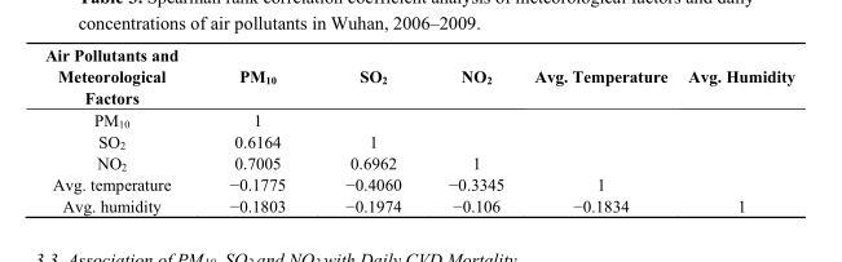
<table><thead><tr><td>Air Pollutants and Meteorological Factors</td><td>PM<sub>10</sub></td><td>SO<sub>2</sub></td><td>NO<sub>2</sub></td><td>Avg. Temperature</td><td>Avg. Humidity</td></tr></thead><tbody><tr><td>PM<sub>10</sub></td><td>1</td><td></td><td></td><td></td><td></td></tr><tr><td>SO<sub>2</sub></td><td>0.6164</td><td>1</td><td></td><td></td><td></td></tr><tr><td>NO<sub>2</sub></td><td>0.7005</td><td>0.6962</td><td>1</td><td></td><td></td></tr><tr><td>Avg. temperature</td><td>−0.1775</td><td>−0.4060</td><td>−0.3345</td><td>1</td><td></td></tr><tr><td>Avg. humidity</td><td>−0.1803</td><td>−0.1974</td><td>−0.106</td><td>−0.1834</td><td>1</td></tr></tbody></table>